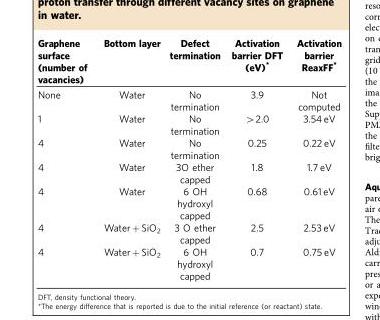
<table><thead><tr><td>Graphene surface (number of vacancies)</td><td>Bottom layer</td><td>Defect termination</td><td>Activation barrier DFT (eV)*</td><td>Activation barrier ReaxFF*</td></tr></thead><tbody><tr><td>None</td><td>Water</td><td>No termination</td><td>3.9</td><td>Not computed</td></tr><tr><td>1</td><td>Water</td><td>No termination</td><td>&gt;2.0</td><td>3.54 eV</td></tr><tr><td>4</td><td>Water</td><td>No termination</td><td>0.25</td><td>0.22 eV</td></tr><tr><td>4</td><td>Water</td><td>3O ether capped</td><td>1.8</td><td>1.7 eV</td></tr><tr><td>4</td><td>Water</td><td>6 OH hydroxyl capped</td><td>0.68</td><td>0.61 eV</td></tr><tr><td>4</td><td>Water + SiO<sub>2</sub></td><td>3 O ether capped</td><td>2.5</td><td>2.53 eV</td></tr><tr><td>4</td><td>Water + SiO<sub>2</sub></td><td>6 OH hydroxyl capped</td><td>0.7</td><td>0.75 eV</td></tr></tbody></table>